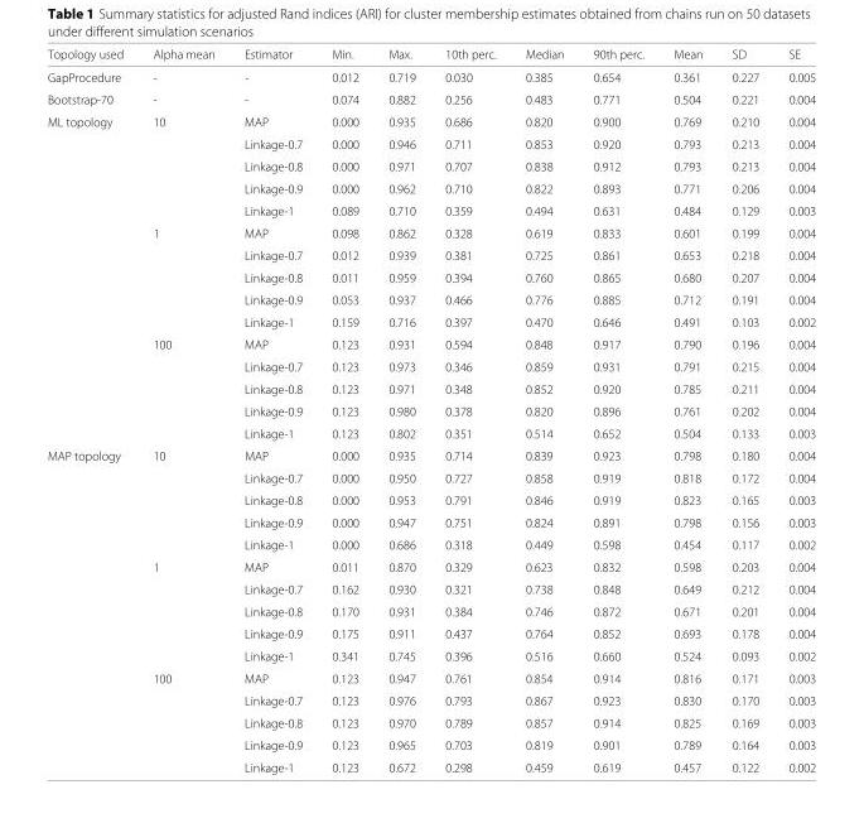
<table><thead><tr><td>Topology used</td><td>Alpha mean</td><td>Estimator</td><td>Min.</td><td>Max.</td><td>10th perc.</td><td>Median</td><td>90th perc.</td><td>Mean</td><td>SD</td><td>SE</td></tr></thead><tbody><tr><td>GapProcedure</td><td>-</td><td>-</td><td>0.012</td><td>0.719</td><td>0.030</td><td>0.385</td><td>0.654</td><td>0.361</td><td>0.227</td><td>0.005</td></tr><tr><td>Bootstrap-70</td><td>-</td><td>-</td><td>0.074</td><td>0.882</td><td>0.256</td><td>0.483</td><td>0.771</td><td>0.504</td><td>0.221</td><td>0.004</td></tr><tr><td rowspan="15">ML topology</td><td>10</td><td>MAP</td><td>0.000</td><td>0.935</td><td>0.686</td><td>0.820</td><td>0.900</td><td>0.769</td><td>0.210</td><td>0.004</td></tr><tr><td></td><td>Linkage-0.7</td><td>0.000</td><td>0.946</td><td>0.711</td><td>0.853</td><td>0.920</td><td>0.793</td><td>0.213</td><td>0.004</td></tr><tr><td></td><td>Linkage-0.8</td><td>0.000</td><td>0.971</td><td>0.707</td><td>0.838</td><td>0.912</td><td>0.793</td><td>0.213</td><td>0.004</td></tr><tr><td></td><td>Linkage-0.9</td><td>0.000</td><td>0.962</td><td>0.710</td><td>0.822</td><td>0.893</td><td>0.771</td><td>0.206</td><td>0.004</td></tr><tr><td></td><td>Linkage-1</td><td>0.089</td><td>0.710</td><td>0.359</td><td>0.494</td><td>0.631</td><td>0.484</td><td>0.129</td><td>0.003</td></tr><tr><td>1</td><td>MAP</td><td>0.098</td><td>0.862</td><td>0.328</td><td>0.619</td><td>0.833</td><td>0.601</td><td>0.199</td><td>0.004</td></tr><tr><td></td><td>Linkage-0.7</td><td>0.012</td><td>0.939</td><td>0.381</td><td>0.725</td><td>0.861</td><td>0.653</td><td>0.218</td><td>0.004</td></tr><tr><td></td><td>Linkage-0.8</td><td>0.011</td><td>0.959</td><td>0.394</td><td>0.760</td><td>0.865</td><td>0.680</td><td>0.207</td><td>0.004</td></tr><tr><td></td><td>Linkage-0.9</td><td>0.053</td><td>0.937</td><td>0.466</td><td>0.776</td><td>0.885</td><td>0.712</td><td>0.191</td><td>0.004</td></tr><tr><td></td><td>Linkage-1</td><td>0.159</td><td>0.716</td><td>0.397</td><td>0.470</td><td>0.646</td><td>0.491</td><td>0.103</td><td>0.002</td></tr><tr><td>100</td><td>MAP</td><td>0.123</td><td>0.931</td><td>0.594</td><td>0.848</td><td>0.917</td><td>0.790</td><td>0.196</td><td>0.004</td></tr><tr><td></td><td>Linkage-0.7</td><td>0.123</td><td>0.973</td><td>0.346</td><td>0.859</td><td>0.931</td><td>0.791</td><td>0.215</td><td>0.004</td></tr><tr><td></td><td>Linkage-0.8</td><td>0.123</td><td>0.971</td><td>0.348</td><td>0.852</td><td>0.920</td><td>0.785</td><td>0.211</td><td>0.004</td></tr><tr><td></td><td>Linkage-0.9</td><td>0.123</td><td>0.980</td><td>0.378</td><td>0.820</td><td>0.896</td><td>0.761</td><td>0.202</td><td>0.004</td></tr><tr><td></td><td>Linkage-1</td><td>0.123</td><td>0.802</td><td>0.351</td><td>0.514</td><td>0.652</td><td>0.504</td><td>0.133</td><td>0.003</td></tr><tr><td rowspan="15">MAP topology</td><td>10</td><td>MAP</td><td>0.000</td><td>0.935</td><td>0.714</td><td>0.839</td><td>0.923</td><td>0.798</td><td>0.180</td><td>0.004</td></tr><tr><td></td><td>Linkage-0.7</td><td>0.000</td><td>0.950</td><td>0.727</td><td>0.858</td><td>0.919</td><td>0.818</td><td>0.172</td><td>0.004</td></tr><tr><td></td><td>Linkage-0.8</td><td>0.000</td><td>0.953</td><td>0.791</td><td>0.846</td><td>0.919</td><td>0.823</td><td>0.165</td><td>0.003</td></tr><tr><td></td><td>Linkage-0.9</td><td>0.000</td><td>0.947</td><td>0.751</td><td>0.824</td><td>0.891</td><td>0.798</td><td>0.156</td><td>0.003</td></tr><tr><td></td><td>Linkage-1</td><td>0.000</td><td>0.686</td><td>0.318</td><td>0.449</td><td>0.598</td><td>0.454</td><td>0.117</td><td>0.002</td></tr><tr><td>1</td><td>MAP</td><td>0.011</td><td>0.870</td><td>0.329</td><td>0.623</td><td>0.832</td><td>0.598</td><td>0.203</td><td>0.004</td></tr><tr><td></td><td>Linkage-0.7</td><td>0.162</td><td>0.930</td><td>0.321</td><td>0.738</td><td>0.848</td><td>0.649</td><td>0.212</td><td>0.004</td></tr><tr><td></td><td>Linkage-0.8</td><td>0.170</td><td>0.931</td><td>0.384</td><td>0.746</td><td>0.872</td><td>0.671</td><td>0.201</td><td>0.004</td></tr><tr><td></td><td>Linkage-0.9</td><td>0.175</td><td>0.911</td><td>0.437</td><td>0.764</td><td>0.852</td><td>0.693</td><td>0.178</td><td>0.004</td></tr><tr><td></td><td>Linkage-1</td><td>0.341</td><td>0.745</td><td>0.396</td><td>0.516</td><td>0.660</td><td>0.524</td><td>0.093</td><td>0.002</td></tr><tr><td>100</td><td>MAP</td><td>0.123</td><td>0.947</td><td>0.761</td><td>0.854</td><td>0.914</td><td>0.816</td><td>0.171</td><td>0.003</td></tr><tr><td></td><td>Linkage-0.7</td><td>0.123</td><td>0.976</td><td>0.793</td><td>0.867</td><td>0.923</td><td>0.830</td><td>0.170</td><td>0.003</td></tr><tr><td></td><td>Linkage-0.8</td><td>0.123</td><td>0.970</td><td>0.789</td><td>0.857</td><td>0.914</td><td>0.825</td><td>0.169</td><td>0.003</td></tr><tr><td></td><td>Linkage-0.9</td><td>0.123</td><td>0.965</td><td>0.703</td><td>0.819</td><td>0.901</td><td>0.789</td><td>0.164</td><td>0.003</td></tr><tr><td></td><td>Linkage-1</td><td>0.123</td><td>0.672</td><td>0.298</td><td>0.459</td><td>0.619</td><td>0.457</td><td>0.122</td><td>0.002</td></tr></tbody></table>